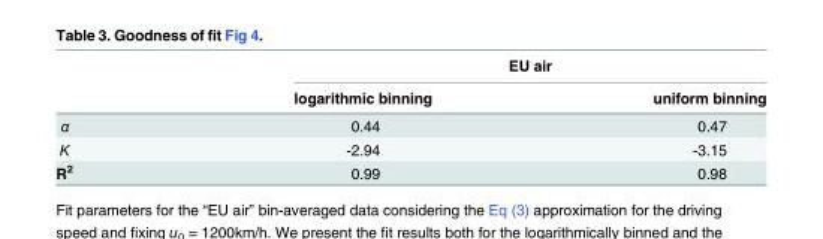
<table><thead><tr><td rowspan="2"></td><td colspan="2">EU air</td></tr><tr><td>logarithmic binning</td><td>uniform binning</td></tr></thead><tbody><tr><td>α</td><td>0.44</td><td>0.47</td></tr><tr><td>K</td><td>-2.94</td><td>-3.15</td></tr><tr><td>R<sup>2</sup></td><td>0.99</td><td>0.98</td></tr></tbody></table>